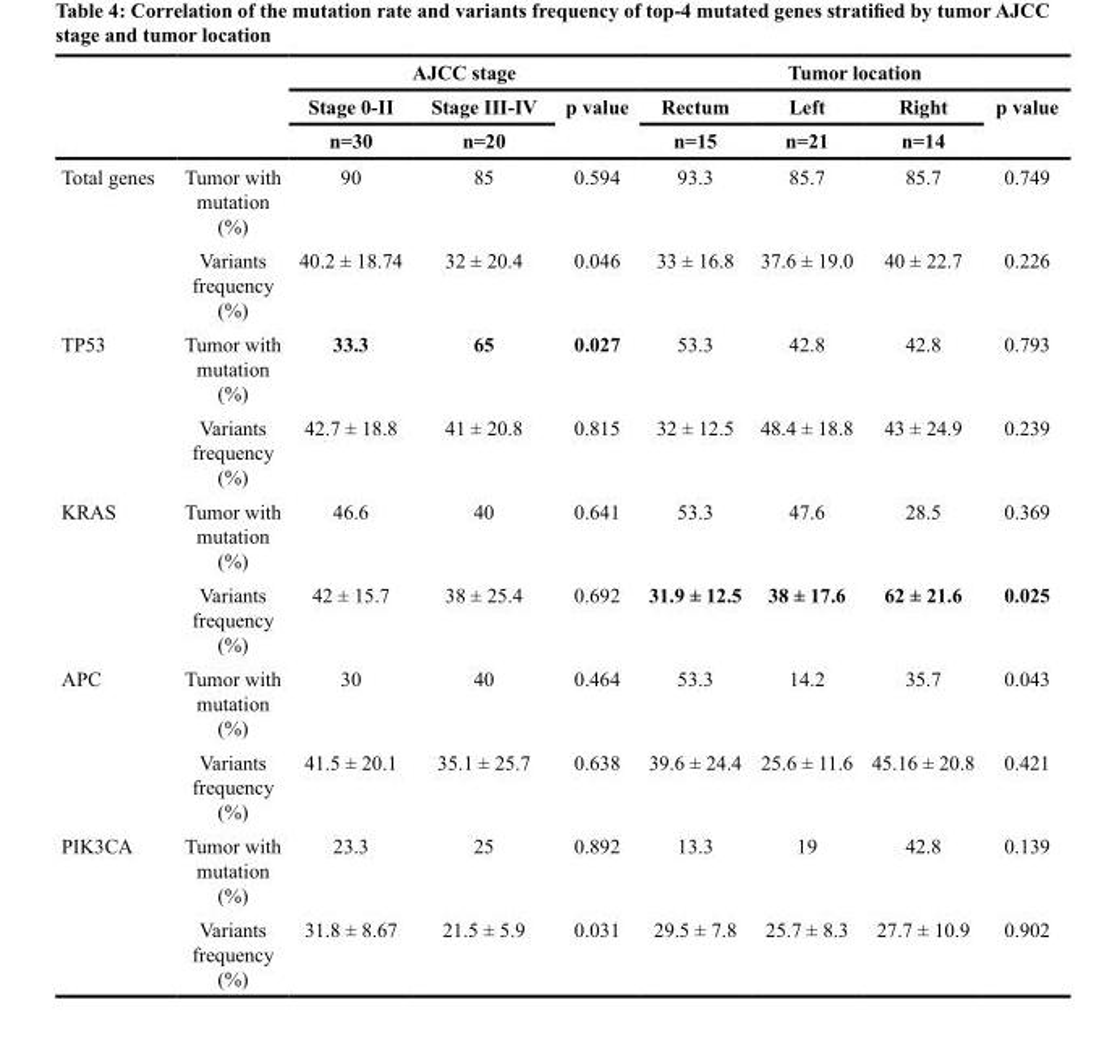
<table><thead><tr><td rowspan="3"></td><td rowspan="3"></td><td colspan="3">AJCC stage</td><td colspan="4">Tumor location</td></tr><tr><td rowspan="2">Stage 0-II n=30</td><td rowspan="2">Stage III-IV n=20</td><td rowspan="2">p value</td><td rowspan="2">Rectum n=15</td><td rowspan="2">Left n=21</td><td rowspan="2">Right n=14</td><td rowspan="2">p value</td></tr><tr></tr></thead><tbody><tr><td rowspan="2">Total genes</td><td>Tumor with mutation (%)</td><td>90</td><td>85</td><td>0.594</td><td>93.3</td><td>85.7</td><td>85.7</td><td>0.749</td></tr><tr><td>Variants frequency (%)</td><td>40.2 ± 18.74</td><td>32 ± 20.4</td><td>0.046</td><td>33 ± 16.8</td><td>37.6 ± 19.0</td><td>40 ± 22.7</td><td>0.226</td></tr><tr><td rowspan="2">TP53</td><td>Tumor with mutation (%)</td><td>33.3</td><td>65</td><td>0.027</td><td>53.3</td><td>42.8</td><td>42.8</td><td>0.793</td></tr><tr><td>Variants frequency (%)</td><td>42.7 ± 18.8</td><td>41 ± 20.8</td><td>0.815</td><td>32 ± 12.5</td><td>48.4 ± 18.8</td><td>43 ± 24.9</td><td>0.239</td></tr><tr><td rowspan="2">KRAS</td><td>Tumor with mutation (%)</td><td>46.6</td><td>40</td><td>0.641</td><td>53.3</td><td>47.6</td><td>28.5</td><td>0.369</td></tr><tr><td>Variants frequency (%)</td><td>42 ± 15.7</td><td>38 ± 25.4</td><td>0.692</td><td>31.9 ± 12.5</td><td>38 ± 17.6</td><td>62 ± 21.6</td><td>0.025</td></tr><tr><td rowspan="2">APC</td><td>Tumor with mutation (%)</td><td>30</td><td>40</td><td>0.464</td><td>53.3</td><td>14.2</td><td>35.7</td><td>0.043</td></tr><tr><td>Variants frequency (%)</td><td>41.5 ± 20.1</td><td>35.1 ± 25.7</td><td>0.638</td><td>39.6 ± 24.4</td><td>25.6 ± 11.6</td><td>45.16 ± 20.8</td><td>0.421</td></tr><tr><td rowspan="2">PIK3CA</td><td>Tumor with mutation (%)</td><td>23.3</td><td>25</td><td>0.892</td><td>13.3</td><td>19</td><td>42.8</td><td>0.139</td></tr><tr><td>Variants frequency (%)</td><td>31.8 ± 8.67</td><td>21.5 ± 5.9</td><td>0.031</td><td>29.5 ± 7.8</td><td>25.7 ± 8.3</td><td>27.7 ± 10.9</td><td>0.902</td></tr></tbody></table>